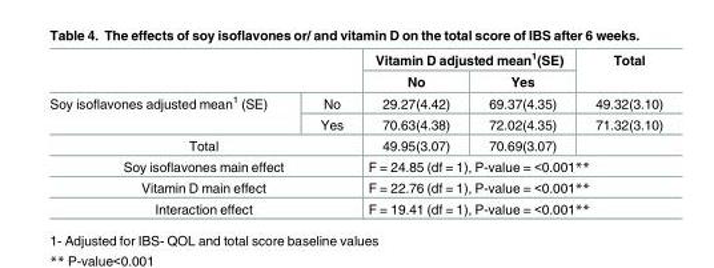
<table><thead><tr><td rowspan="2"></td><td rowspan="2"></td><td colspan="2">Vitamin D adjusted mean<sup>1</sup>(SE)</td><td rowspan="2">Total</td></tr><tr><td>No</td><td>Yes</td></tr></thead><tbody><tr><td rowspan="2">Soy isoflavones adjusted mean<sup>1</sup> (SE)</td><td>No</td><td>29.27(4.42)</td><td>69.37(4.35)</td><td>49.32(3.10)</td></tr><tr><td>Yes</td><td>70.63(4.38)</td><td>72.02(4.35)</td><td>71.32(3.10)</td></tr><tr><td colspan="2">Total</td><td>49.95(3.07)</td><td>70.69(3.07)</td><td></td></tr><tr><td colspan="2">Soy isoflavones main effect</td><td colspan="3">F = 24.85 (df = 1), P-value = &lt;0.001**</td></tr><tr><td colspan="2">Vitamin D main effect</td><td colspan="3">F = 22.76 (df = 1), P-value = &lt;0.001**</td></tr><tr><td colspan="2">Interaction effect</td><td colspan="3">F = 19.41 (df = 1), P-value = &lt;0.001**</td></tr></tbody></table>